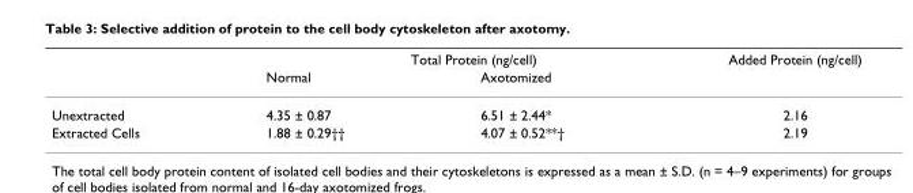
<table><thead><tr><td rowspan="2"></td><td colspan="2">Total Protein (ng/cell)</td><td rowspan="2">Added Protein (ng/cell)</td></tr><tr><td>Normal</td><td>Axotomized</td></tr></thead><tbody><tr><td>Unextracted</td><td>4.35 ± 0.87</td><td>6.51 ± 2.44*</td><td>2.16</td></tr><tr><td>Extracted Cells</td><td>1.88 ± 0.29††</td><td>4.07 ± 0.52**†</td><td>2.19</td></tr></tbody></table>